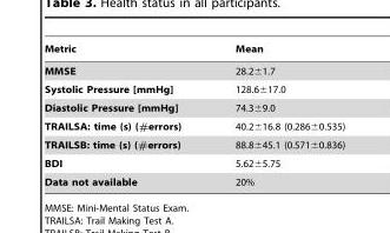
<table><thead><tr><td>Metric</td><td>Mean</td></tr></thead><tbody><tr><td>MMSE</td><td>28.2±1.7</td></tr><tr><td>Systolic Pressure [mmHg]</td><td>128.6±17.0</td></tr><tr><td>Diastolic Pressure [mmHg]</td><td>74.3±9.0</td></tr><tr><td>TRAILSA: time (s) (#errors)</td><td>40.2±16.8 (0.286±0.535)</td></tr><tr><td>TRAILSB: time (s) (#errors)</td><td>88.8±45.1 (0.571±0.836)</td></tr><tr><td>BDI</td><td>5.62±5.75</td></tr><tr><td>Data not available</td><td>20%</td></tr></tbody></table>